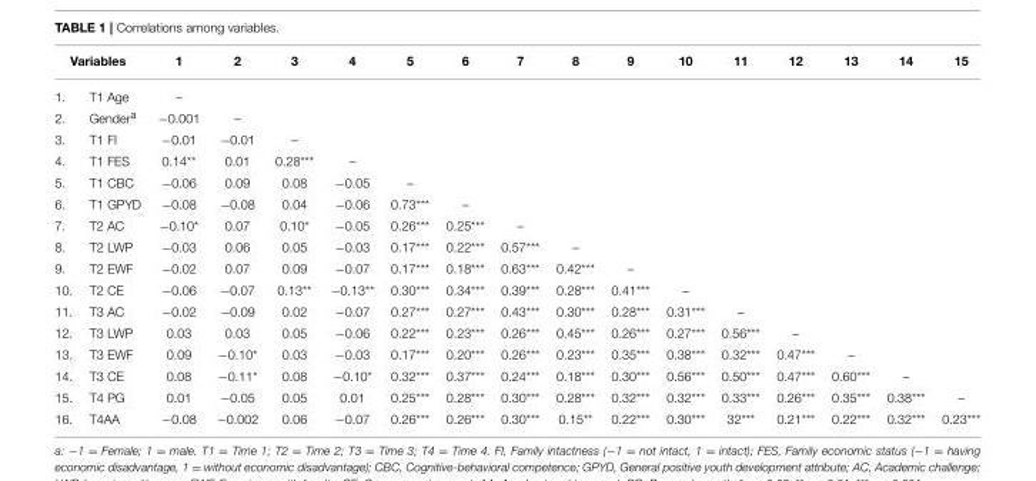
<table><thead><tr><td colspan="2">Variables</td><td rowspan="2">1 –</td><td rowspan="2">2</td><td rowspan="2">3</td><td rowspan="2">4</td><td rowspan="2">5</td><td rowspan="2">6</td><td rowspan="2">7</td><td rowspan="2">8</td><td rowspan="2">9</td><td rowspan="2">10</td><td rowspan="2">11</td><td rowspan="2">12</td><td rowspan="2">13</td><td rowspan="2">14</td><td rowspan="2">15</td></tr><tr><td>1.</td><td>T1 Age</td></tr></thead><tbody><tr><td>2.</td><td>Gender<sup>a</sup></td><td>−0.001</td><td>–</td><td></td><td></td><td></td><td></td><td></td><td></td><td></td><td></td><td></td><td></td><td></td><td></td><td></td></tr><tr><td>3.</td><td>T1 FI</td><td>−0.01</td><td>−0.01</td><td>–</td><td></td><td></td><td></td><td></td><td></td><td></td><td></td><td></td><td></td><td></td><td></td><td></td></tr><tr><td>4.</td><td>T1 FES</td><td>0.14**</td><td>0.01</td><td>0.28***</td><td>–</td><td></td><td></td><td></td><td></td><td></td><td></td><td></td><td></td><td></td><td></td><td></td></tr><tr><td>5.</td><td>T1 CBC</td><td>−0.06</td><td>0.09</td><td>0.08</td><td>−0.05</td><td>–</td><td></td><td></td><td></td><td></td><td></td><td></td><td></td><td></td><td></td><td></td></tr><tr><td>6.</td><td>T1 GPYD</td><td>−0.08</td><td>−0.08</td><td>0.04</td><td>−0.06</td><td>0.73***</td><td>–</td><td></td><td></td><td></td><td></td><td></td><td></td><td></td><td></td><td></td></tr><tr><td>7.</td><td>T2 AC</td><td>−0.10*</td><td>0.07</td><td>0.10*</td><td>−0.05</td><td>0.26***</td><td>0.25***</td><td>–</td><td></td><td></td><td></td><td></td><td></td><td></td><td></td><td></td></tr><tr><td>8.</td><td>T2 LWP</td><td>−0.03</td><td>0.06</td><td>0.05</td><td>−0.03</td><td>0.17***</td><td>0.22***</td><td>0.57***</td><td>–</td><td></td><td></td><td></td><td></td><td></td><td></td><td></td></tr><tr><td>9.</td><td>T2 EWF</td><td>−0.02</td><td>0.07</td><td>0.09</td><td>−0.07</td><td>0.17***</td><td>0.18***</td><td>0.63***</td><td>0.42***</td><td>–</td><td></td><td></td><td></td><td></td><td></td><td></td></tr><tr><td>10.</td><td>T2 CE</td><td>−0.06</td><td>−0.07</td><td>0.13**</td><td>−0.13**</td><td>0.30***</td><td>0.34***</td><td>0.39***</td><td>0.28***</td><td>0.41***</td><td>–</td><td></td><td></td><td></td><td></td><td></td></tr><tr><td>11.</td><td>T3 AC</td><td>−0.02</td><td>−0.09</td><td>0.02</td><td>−0.07</td><td>0.27***</td><td>0.27***</td><td>0.43***</td><td>0.30***</td><td>0.28***</td><td>0.31***</td><td>–</td><td></td><td></td><td></td><td></td></tr><tr><td>12.</td><td>T3 LWP</td><td>0.03</td><td>0.03</td><td>0.05</td><td>−0.06</td><td>0.22***</td><td>0.23***</td><td>0.26***</td><td>0.45***</td><td>0.26***</td><td>0.27***</td><td>0.56***</td><td>–</td><td></td><td></td><td></td></tr><tr><td>13.</td><td>T3 EWF</td><td>0.09</td><td>−0.10*</td><td>0.03</td><td>−0.03</td><td>0.17***</td><td>0.20***</td><td>0.26***</td><td>0.23***</td><td>0.35***</td><td>0.38***</td><td>0.32***</td><td>0.47***</td><td>–</td><td></td><td></td></tr><tr><td>14.</td><td>T3 CE</td><td>0.08</td><td>−0.11*</td><td>0.08</td><td>−0.10*</td><td>0.32***</td><td>0.37***</td><td>0.24***</td><td>0.18***</td><td>0.30***</td><td>0.56***</td><td>0.50***</td><td>0.47***</td><td>0.60***</td><td>–</td><td></td></tr><tr><td>15.</td><td>T4 PG</td><td>0.01</td><td>−0.05</td><td>0.05</td><td>0.01</td><td>0.25***</td><td>0.28***</td><td>0.30***</td><td>0.28***</td><td>0.32***</td><td>0.32***</td><td>0.33***</td><td>0.26***</td><td>0.35***</td><td>0.38***</td><td>–</td></tr><tr><td>16.</td><td>T4AA</td><td>−0.08</td><td>−0.002</td><td>0.06</td><td>−0.07</td><td>0.26***</td><td>0.26***</td><td>0.30***</td><td>0.15**</td><td>0.22***</td><td>0.30***</td><td>32***</td><td>0.21***</td><td>0.22***</td><td>0.32***</td><td>0.23***</td></tr></tbody></table>